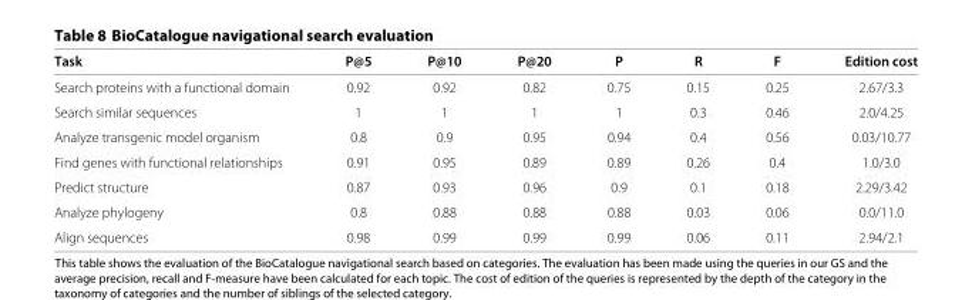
<table><thead><tr><td>Task</td><td>P@5</td><td>P@10</td><td>P@20</td><td>P</td><td>R</td><td>F</td><td>Edition cost</td></tr></thead><tbody><tr><td>Search proteins with a functional domain</td><td>0.92</td><td>0.92</td><td>0.82</td><td>0.75</td><td>0.15</td><td>0.25</td><td>2.67/3.3</td></tr><tr><td>Search similar sequences</td><td>1</td><td>1</td><td>1</td><td>1</td><td>0.3</td><td>0.46</td><td>2.0/4.25</td></tr><tr><td>Analyze transgenic model organism</td><td>0.8</td><td>0.9</td><td>0.95</td><td>0.94</td><td>0.4</td><td>0.56</td><td>0.03/10.77</td></tr><tr><td>Find genes with functional relationships</td><td>0.91</td><td>0.95</td><td>0.89</td><td>0.89</td><td>0.26</td><td>0.4</td><td>1.0/3.0</td></tr><tr><td>Predict structure</td><td>0.87</td><td>0.93</td><td>0.96</td><td>0.9</td><td>0.1</td><td>0.18</td><td>2.29/3.42</td></tr><tr><td>Analyze phylogeny</td><td>0.8</td><td>0.88</td><td>0.88</td><td>0.88</td><td>0.03</td><td>0.06</td><td>0.0/11.0</td></tr><tr><td>Align sequences</td><td>0.98</td><td>0.99</td><td>0.99</td><td>0.99</td><td>0.06</td><td>0.11</td><td>2.94/2.1</td></tr></tbody></table>